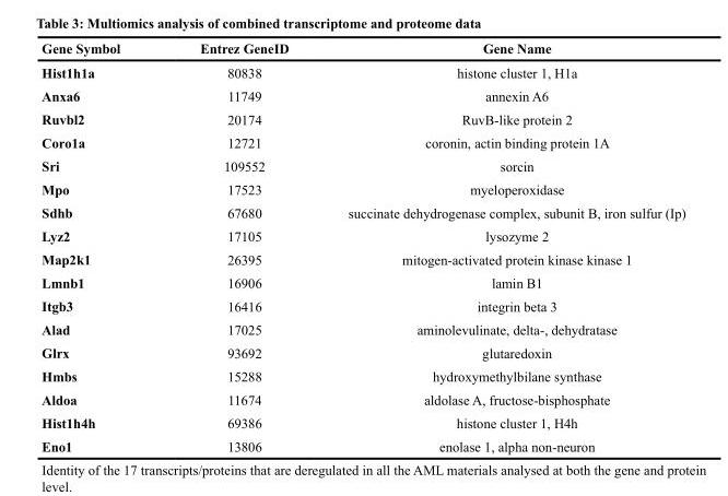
<table><thead><tr><td>Gene Symbol</td><td>Entrez GeneID</td><td>Gene Name</td></tr></thead><tbody><tr><td>Hist1h1a</td><td>80838</td><td>histone cluster 1, H1a</td></tr><tr><td>Anxa6</td><td>11749</td><td>annexin A6</td></tr><tr><td>Ruvbl2</td><td>20174</td><td>RuvB-like protein 2</td></tr><tr><td>Coro1a</td><td>12721</td><td>coronin, actin binding protein 1A</td></tr><tr><td>Sri</td><td>109552</td><td>sorcin</td></tr><tr><td>Mpo</td><td>17523</td><td>myeloperoxidase</td></tr><tr><td>Sdhb</td><td>67680</td><td>succinate dehydrogenase complex, subunit B, iron sulfur (Ip)</td></tr><tr><td>Lyz2</td><td>17105</td><td>lysozyme 2</td></tr><tr><td>Map2k1</td><td>26395</td><td>mitogen-activated protein kinase kinase 1</td></tr><tr><td>Lmnb1</td><td>16906</td><td>lamin B1</td></tr><tr><td>Itgb3</td><td>16416</td><td>integrin beta 3</td></tr><tr><td>Alad</td><td>17025</td><td>aminolevulinate, delta-, dehydratase</td></tr><tr><td>Glrx</td><td>93692</td><td>glutaredoxin</td></tr><tr><td>Hmbs</td><td>15288</td><td>hydroxymethylbilane synthase</td></tr><tr><td>Aldoa</td><td>11674</td><td>aldolase A, fructose-bisphosphate</td></tr><tr><td>Hist1h4h</td><td>69386</td><td>histone cluster 1, H4h</td></tr><tr><td>Eno1</td><td>13806</td><td>enolase 1, alpha non-neuron</td></tr></tbody></table>